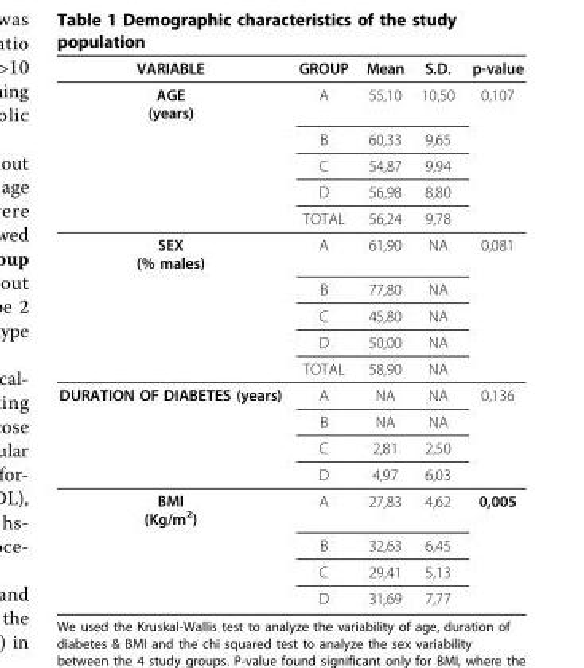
<table><thead><tr><td>VARIABLE</td><td>GROUP</td><td>Mean</td><td>S.D.</td><td>p-value</td></tr></thead><tbody><tr><td rowspan="5">AGE (years)</td><td>A</td><td>55,10</td><td>10,50</td><td>0,107</td></tr><tr><td>B</td><td>60,33</td><td>9,65</td><td></td></tr><tr><td>C</td><td>54,87</td><td>9,94</td><td></td></tr><tr><td>D</td><td>56,98</td><td>8,80</td><td></td></tr><tr><td>TOTAL</td><td>56,24</td><td>9,78</td><td></td></tr><tr><td rowspan="5">SEX (% males)</td><td>A</td><td>61,90</td><td>NA</td><td>0,081</td></tr><tr><td>B</td><td>77,80</td><td>NA</td><td></td></tr><tr><td>C</td><td>45,80</td><td>NA</td><td></td></tr><tr><td>D</td><td>50,00</td><td>NA</td><td></td></tr><tr><td>TOTAL</td><td>58,90</td><td>NA</td><td></td></tr><tr><td rowspan="4">DURATION OF DIABETES (years)</td><td>A</td><td>NA</td><td>NA</td><td>0,136</td></tr><tr><td>B</td><td>NA</td><td>NA</td><td></td></tr><tr><td>C</td><td>2,81</td><td>2,50</td><td></td></tr><tr><td>D</td><td>4,97</td><td>6,03</td><td></td></tr><tr><td rowspan="4">BMI (Kg/m<sup>2</sup>)</td><td>A</td><td>27,83</td><td>4,62</td><td>0,005</td></tr><tr><td>B</td><td>32,63</td><td>6,45</td><td></td></tr><tr><td>C</td><td>29,41</td><td>5,13</td><td></td></tr><tr><td>D</td><td>31,69</td><td>7,77</td><td></td></tr></tbody></table>